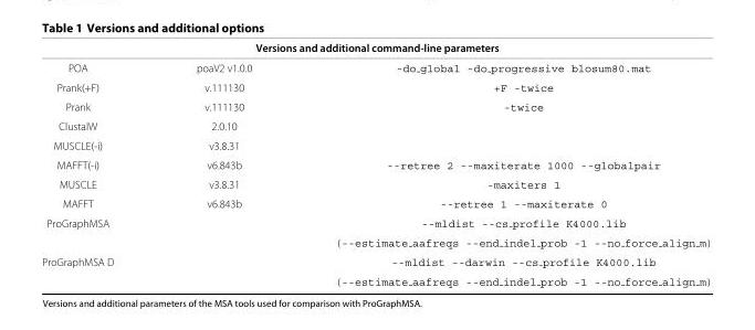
<table><thead><tr><td colspan="3">Versions and additional command-line parameters</td></tr><tr><td>POA</td><td>poaV2 v1.0.0</td><td>-do global -do progressive blosum80.mat</td></tr></thead><tbody><tr><td>Prank(+F)</td><td>v.111130</td><td>+F -twice</td></tr><tr><td>Prank</td><td>v.111130</td><td>-twice</td></tr><tr><td>ClustalW</td><td>2.0.10</td><td></td></tr><tr><td>MUSCLE(-i)</td><td>v3.8.31</td><td></td></tr><tr><td>MAFFT(-i)</td><td>v6.843b</td><td>--retree 2 --maxiterate 1000 --globalpair</td></tr><tr><td>MUSCLE</td><td>v3.8.31</td><td>-maxiters 1</td></tr><tr><td>MAFFT</td><td>v6.843b</td><td>--retree 1 --maxiterate 0</td></tr><tr><td rowspan="2">ProGraphMSA</td><td></td><td>--mldist --cs profile K4000.lib</td></tr><tr><td></td><td>(--estimate <sub>aafreqs --end</sub> indel <sub>prob -1 --no</sub> force <sub>align</sub> m)</td></tr><tr><td rowspan="2">ProGraphMSA D</td><td></td><td>--mldist --darwin --cs profile K4000.lib</td></tr><tr><td></td><td>(--estimate <sub>aafreqs --end</sub> indel <sub>prob -1 --no</sub> force <sub>align</sub> m)</td></tr></tbody></table>